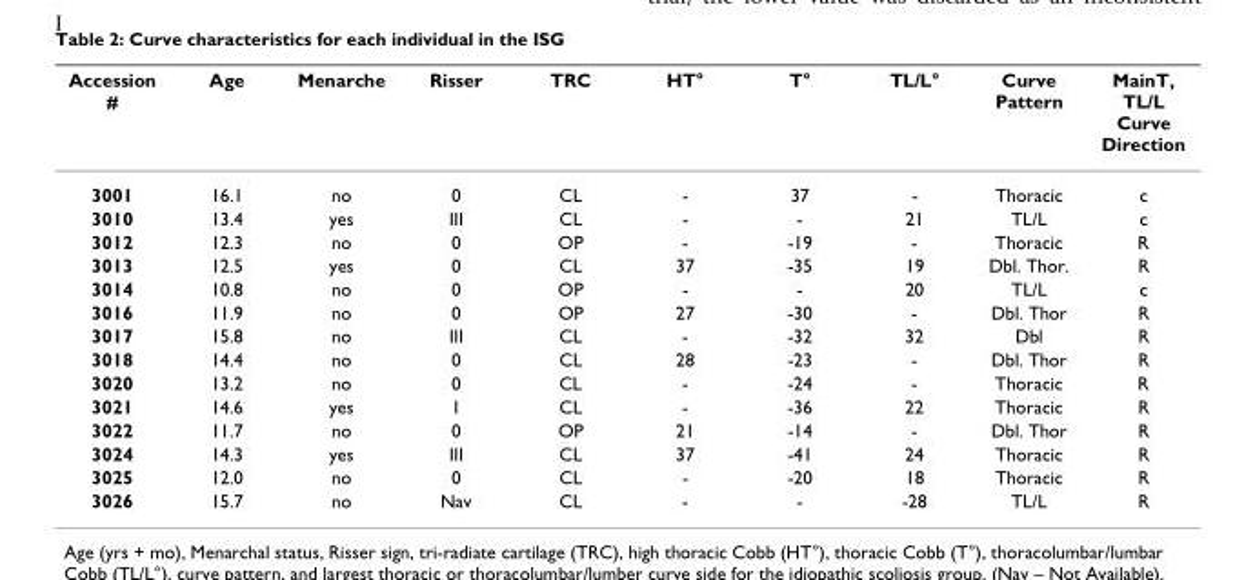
<table><thead><tr><td>Accession #</td><td>Age</td><td>Menarche</td><td>Risser</td><td>TRC</td><td>HT°</td><td>T°</td><td>TL/L°</td><td>Curve Pattern</td><td>MainT, TL/L Curve Direction</td></tr></thead><tbody><tr><td>3001</td><td>16.1</td><td>no</td><td>0</td><td>CL</td><td>-</td><td>37</td><td>-</td><td>Thoracic</td><td>c</td></tr><tr><td>3010</td><td>13.4</td><td>yes</td><td>III</td><td>CL</td><td>-</td><td>-</td><td>21</td><td>TL/L</td><td>c</td></tr><tr><td>3012</td><td>12.3</td><td>no</td><td>0</td><td>OP</td><td>-</td><td>-19</td><td>-</td><td>Thoracic</td><td>R</td></tr><tr><td>3013</td><td>12.5</td><td>yes</td><td>0</td><td>CL</td><td>37</td><td>-35</td><td>19</td><td>Dbl. Thor.</td><td>R</td></tr><tr><td>3014</td><td>10.8</td><td>no</td><td>0</td><td>OP</td><td>-</td><td>-</td><td>20</td><td>TL/L</td><td>c</td></tr><tr><td>3016</td><td>11.9</td><td>no</td><td>0</td><td>OP</td><td>27</td><td>-30</td><td>-</td><td>Dbl. Thor</td><td>R</td></tr><tr><td>3017</td><td>15.8</td><td>no</td><td>III</td><td>CL</td><td>-</td><td>-32</td><td>32</td><td>Dbl</td><td>R</td></tr><tr><td>3018</td><td>14.4</td><td>no</td><td>0</td><td>CL</td><td>28</td><td>-23</td><td>-</td><td>Dbl. Thor</td><td>R</td></tr><tr><td>3020</td><td>13.2</td><td>no</td><td>0</td><td>CL</td><td>-</td><td>-24</td><td>-</td><td>Thoracic</td><td>R</td></tr><tr><td>3021</td><td>14.6</td><td>yes</td><td>I</td><td>CL</td><td>-</td><td>-36</td><td>22</td><td>Thoracic</td><td>R</td></tr><tr><td>3022</td><td>11.7</td><td>no</td><td>0</td><td>OP</td><td>21</td><td>-14</td><td>-</td><td>Dbl. Thor</td><td>R</td></tr><tr><td>3024</td><td>14.3</td><td>yes</td><td>III</td><td>CL</td><td>37</td><td>-41</td><td>24</td><td>Thoracic</td><td>R</td></tr><tr><td>3025</td><td>12.0</td><td>no</td><td>0</td><td>CL</td><td>-</td><td>-20</td><td>18</td><td>Thoracic</td><td>R</td></tr><tr><td>3026</td><td>15.7</td><td>no</td><td>Nav</td><td>CL</td><td>-</td><td>-</td><td>-28</td><td>TL/L</td><td>R</td></tr></tbody></table>